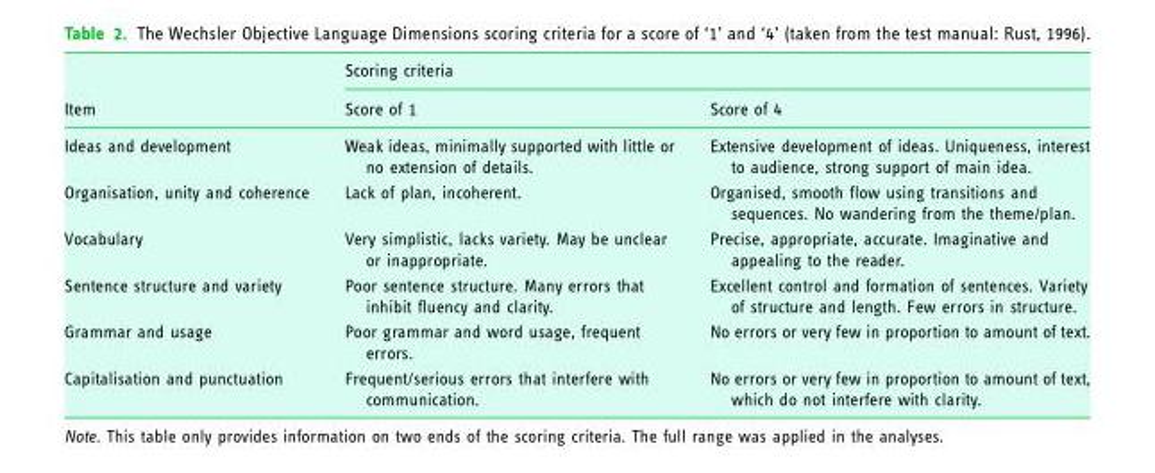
<table><thead><tr><td rowspan="2">Item</td><td colspan="2">Scoring criteria</td></tr><tr><td>Score of 1</td><td>Score of 4</td></tr></thead><tbody><tr><td>Ideas and development</td><td>Weak ideas, minimally supported with little or no extension of details.</td><td>Extensive development of ideas. Uniqueness, interest to audience, strong support of main idea.</td></tr><tr><td>Organisation, unity and coherence</td><td>Lack of plan, incoherent.</td><td>Organised, smooth flow using transitions and sequences. No wandering from the theme/plan.</td></tr><tr><td>Vocabulary</td><td>Very simplistic, lacks variety. May be unclear or inappropriate.</td><td>Precise, appropriate, accurate. Imaginative and appealing to the reader.</td></tr><tr><td>Sentence structure and variety</td><td>Poor sentence structure. Many errors that inhibit fluency and clarity.</td><td>Excellent control and formation of sentences. Variety of structure and length. Few errors in structure.</td></tr><tr><td>Grammar and usage</td><td>Poor grammar and word usage, frequent errors.</td><td>No errors or very few in proportion to amount of text.</td></tr><tr><td>Capitalisation and punctuation</td><td>Frequent/serious errors that interfere with communication.</td><td>No errors or very few in proportion to amount of text, which do not interfere with clarity.</td></tr></tbody></table>